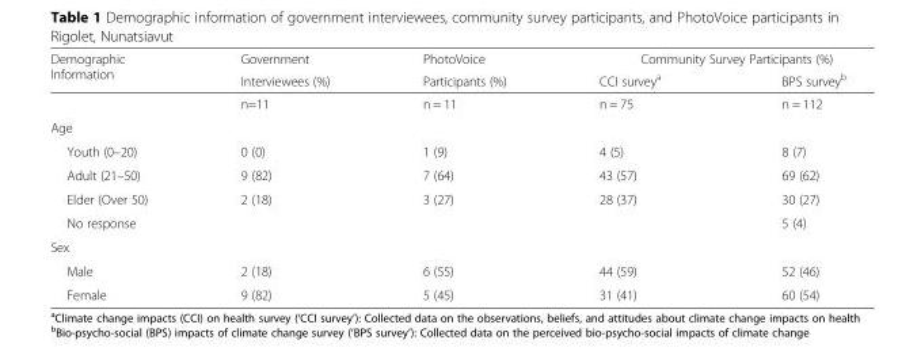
<table><thead><tr><td rowspan="2">Demographic Information</td><td rowspan="2">Government Interviewees (%)</td><td rowspan="2">PhotoVoice Participants (%)</td><td colspan="2">Community Survey Participants (%)</td></tr><tr><td>CCI survey<sup>a</sup></td><td>BPS survey<sup>b</sup></td></tr></thead><tbody><tr><td></td><td>n=11</td><td>n = 11</td><td>n = 75</td><td>n = 112</td></tr><tr><td colspan="5">Age</td></tr><tr><td>Youth (0–20)</td><td>0 (0)</td><td>1 (9)</td><td>4 (5)</td><td>8 (7)</td></tr><tr><td>Adult (21–50)</td><td>9 (82)</td><td>7 (64)</td><td>43 (57)</td><td>69 (62)</td></tr><tr><td>Elder (Over 50)</td><td>2 (18)</td><td>3 (27)</td><td>28 (37)</td><td>30 (27)</td></tr><tr><td>No response</td><td></td><td></td><td></td><td>5 (4)</td></tr><tr><td colspan="5">Sex</td></tr><tr><td>Male</td><td>2 (18)</td><td>6 (55)</td><td>44 (59)</td><td>52 (46)</td></tr><tr><td>Female</td><td>9 (82)</td><td>5 (45)</td><td>31 (41)</td><td>60 (54)</td></tr></tbody></table>